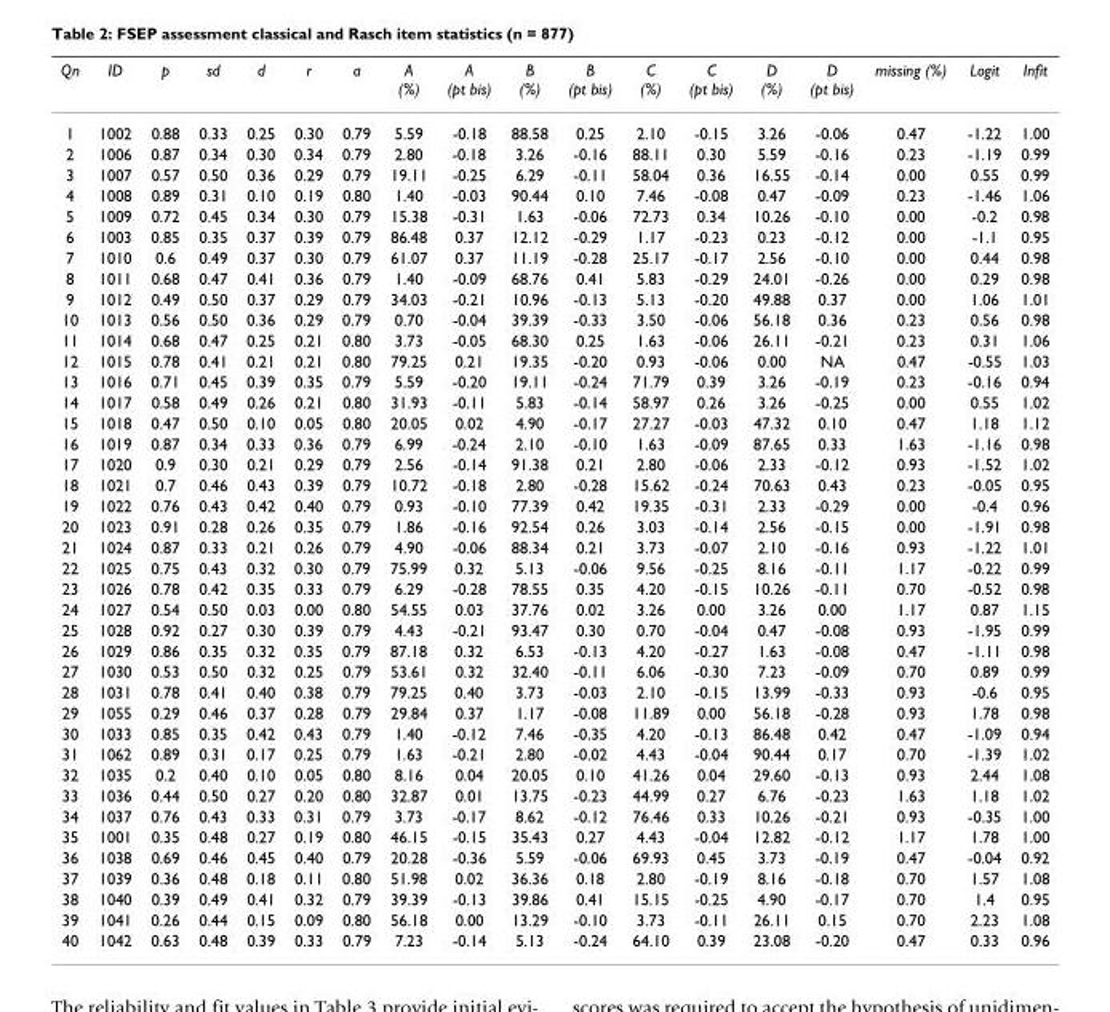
<table><thead><tr><td>Qn</td><td>ID</td><td>p</td><td>sd</td><td>d</td><td>r</td><td>a</td><td>A (%)</td><td>A (pt bis)</td><td>B (%)</td><td>B (pt bis)</td><td>C (%)</td><td>C (pt bis)</td><td>D (%)</td><td>D (pt bis)</td><td>missing (%)</td><td>Logit</td><td>Infit</td></tr></thead><tbody><tr><td>1</td><td>1002</td><td>0.88</td><td>0.33</td><td>0.25</td><td>0.30</td><td>0.79</td><td>5.59</td><td>-0.18</td><td>88.58</td><td>0.25</td><td>2.10</td><td>-0.15</td><td>3.26</td><td>-0.06</td><td>0.47</td><td>-1.22</td><td>1.00</td></tr><tr><td>2</td><td>1006</td><td>0.87</td><td>0.34</td><td>0.30</td><td>0.34</td><td>0.79</td><td>2.80</td><td>-0.18</td><td>3.26</td><td>-0.16</td><td>88.11</td><td>0.30</td><td>5.59</td><td>-0.16</td><td>0.23</td><td>-1.19</td><td>0.99</td></tr><tr><td>3</td><td>1007</td><td>0.57</td><td>0.50</td><td>0.36</td><td>0.29</td><td>0.79</td><td>19.11</td><td>-0.25</td><td>6.29</td><td>-0.11</td><td>58.04</td><td>0.36</td><td>16.55</td><td>-0.14</td><td>0.00</td><td>0.55</td><td>0.99</td></tr><tr><td>4</td><td>1008</td><td>0.89</td><td>0.31</td><td>0.10</td><td>0.19</td><td>0.80</td><td>1.40</td><td>-0.03</td><td>90.44</td><td>0.10</td><td>7.46</td><td>-0.08</td><td>0.47</td><td>-0.09</td><td>0.23</td><td>-1.46</td><td>1.06</td></tr><tr><td>5</td><td>1009</td><td>0.72</td><td>0.45</td><td>0.34</td><td>0.30</td><td>0.79</td><td>15.38</td><td>-0.31</td><td>1.63</td><td>-0.06</td><td>72.73</td><td>0.34</td><td>10.26</td><td>-0.10</td><td>0.00</td><td>-0.2</td><td>0.98</td></tr><tr><td>6</td><td>1003</td><td>0.85</td><td>0.35</td><td>0.37</td><td>0.39</td><td>0.79</td><td>86.48</td><td>0.37</td><td>12.12</td><td>-0.29</td><td>1.17</td><td>-0.23</td><td>0.23</td><td>-0.12</td><td>0.00</td><td>-1.1</td><td>0.95</td></tr><tr><td>7</td><td>1010</td><td>0.6</td><td>0.49</td><td>0.37</td><td>0.30</td><td>0.79</td><td>61.07</td><td>0.37</td><td>11.19</td><td>-0.28</td><td>25.17</td><td>-0.17</td><td>2.56</td><td>-0.10</td><td>0.00</td><td>0.44</td><td>0.98</td></tr><tr><td>8</td><td>1011</td><td>0.68</td><td>0.47</td><td>0.41</td><td>0.36</td><td>0.79</td><td>1.40</td><td>-0.09</td><td>68.76</td><td>0.41</td><td>5.83</td><td>-0.29</td><td>24.01</td><td>-0.26</td><td>0.00</td><td>0.29</td><td>0.98</td></tr><tr><td>9</td><td>1012</td><td>0.49</td><td>0.50</td><td>0.37</td><td>0.29</td><td>0.79</td><td>34.03</td><td>-0.21</td><td>10.96</td><td>-0.13</td><td>5.13</td><td>-0.20</td><td>49.88</td><td>0.37</td><td>0.00</td><td>1.06</td><td>1.01</td></tr><tr><td>10</td><td>1013</td><td>0.56</td><td>0.50</td><td>0.36</td><td>0.29</td><td>0.79</td><td>0.70</td><td>-0.04</td><td>39.39</td><td>-0.33</td><td>3.50</td><td>-0.06</td><td>56.18</td><td>0.36</td><td>0.23</td><td>0.56</td><td>0.98</td></tr><tr><td>11</td><td>1014</td><td>0.68</td><td>0.47</td><td>0.25</td><td>0.21</td><td>0.80</td><td>3.73</td><td>-0.05</td><td>68.30</td><td>0.25</td><td>1.63</td><td>-0.06</td><td>26.11</td><td>-0.21</td><td>0.23</td><td>0.31</td><td>1.06</td></tr><tr><td>12</td><td>1015</td><td>0.78</td><td>0.41</td><td>0.21</td><td>0.21</td><td>0.80</td><td>79.25</td><td>0.21</td><td>19.35</td><td>-0.20</td><td>0.93</td><td>-0.06</td><td>0.00</td><td>NA</td><td>0.47</td><td>-0.55</td><td>1.03</td></tr><tr><td>13</td><td>1016</td><td>0.71</td><td>0.45</td><td>0.39</td><td>0.35</td><td>0.79</td><td>5.59</td><td>-0.20</td><td>19.11</td><td>-0.24</td><td>71.79</td><td>0.39</td><td>3.26</td><td>-0.19</td><td>0.23</td><td>-0.16</td><td>0.94</td></tr><tr><td>14</td><td>1017</td><td>0.58</td><td>0.49</td><td>0.26</td><td>0.21</td><td>0.80</td><td>31.93</td><td>-0.11</td><td>5.83</td><td>-0.14</td><td>58.97</td><td>0.26</td><td>3.26</td><td>-0.25</td><td>0.00</td><td>0.55</td><td>1.02</td></tr><tr><td>15</td><td>1018</td><td>0.47</td><td>0.50</td><td>0.10</td><td>0.05</td><td>0.80</td><td>20.05</td><td>0.02</td><td>4.90</td><td>-0.17</td><td>27.27</td><td>-0.03</td><td>47.32</td><td>0.10</td><td>0.47</td><td>1.18</td><td>1.12</td></tr><tr><td>16</td><td>1019</td><td>0.87</td><td>0.34</td><td>0.33</td><td>0.36</td><td>0.79</td><td>6.99</td><td>-0.24</td><td>2.10</td><td>-0.10</td><td>1.63</td><td>-0.09</td><td>87.65</td><td>0.33</td><td>1.63</td><td>-1.16</td><td>0.98</td></tr><tr><td>17</td><td>1020</td><td>0.9</td><td>0.30</td><td>0.21</td><td>0.29</td><td>0.79</td><td>2.56</td><td>-0.14</td><td>91.38</td><td>0.21</td><td>2.80</td><td>-0.06</td><td>2.33</td><td>-0.12</td><td>0.93</td><td>-1.52</td><td>1.02</td></tr><tr><td>18</td><td>1021</td><td>0.7</td><td>0.46</td><td>0.43</td><td>0.39</td><td>0.79</td><td>10.72</td><td>-0.18</td><td>2.80</td><td>-0.28</td><td>15.62</td><td>-0.24</td><td>70.63</td><td>0.43</td><td>0.23</td><td>-0.05</td><td>0.95</td></tr><tr><td>19</td><td>1022</td><td>0.76</td><td>0.43</td><td>0.42</td><td>0.40</td><td>0.79</td><td>0.93</td><td>-0.10</td><td>77.39</td><td>0.42</td><td>19.35</td><td>-0.31</td><td>2.33</td><td>-0.29</td><td>0.00</td><td>-0.4</td><td>0.96</td></tr><tr><td>20</td><td>1023</td><td>0.91</td><td>0.28</td><td>0.26</td><td>0.35</td><td>0.79</td><td>1.86</td><td>-0.16</td><td>92.54</td><td>0.26</td><td>3.03</td><td>-0.14</td><td>2.56</td><td>-0.15</td><td>0.00</td><td>-1.91</td><td>0.98</td></tr><tr><td>21</td><td>1024</td><td>0.87</td><td>0.33</td><td>0.21</td><td>0.26</td><td>0.79</td><td>4.90</td><td>-0.06</td><td>88.34</td><td>0.21</td><td>3.73</td><td>-0.07</td><td>2.10</td><td>-0.16</td><td>0.93</td><td>-1.22</td><td>1.01</td></tr><tr><td>22</td><td>1025</td><td>0.75</td><td>0.43</td><td>0.32</td><td>0.30</td><td>0.79</td><td>75.99</td><td>0.32</td><td>5.13</td><td>-0.06</td><td>9.56</td><td>-0.25</td><td>8.16</td><td>-0.11</td><td>1.17</td><td>-0.22</td><td>0.99</td></tr><tr><td>23</td><td>1026</td><td>0.78</td><td>0.42</td><td>0.35</td><td>0.33</td><td>0.79</td><td>6.29</td><td>-0.28</td><td>78.55</td><td>0.35</td><td>4.20</td><td>-0.15</td><td>10.26</td><td>-0.11</td><td>0.70</td><td>-0.52</td><td>0.98</td></tr><tr><td>24</td><td>1027</td><td>0.54</td><td>0.50</td><td>0.03</td><td>0.00</td><td>0.80</td><td>54.55</td><td>0.03</td><td>37.76</td><td>0.02</td><td>3.26</td><td>0.00</td><td>3.26</td><td>0.00</td><td>1.17</td><td>0.87</td><td>1.15</td></tr><tr><td>25</td><td>1028</td><td>0.92</td><td>0.27</td><td>0.30</td><td>0.39</td><td>0.79</td><td>4.43</td><td>-0.21</td><td>93.47</td><td>0.30</td><td>0.70</td><td>-0.04</td><td>0.47</td><td>-0.08</td><td>0.93</td><td>-1.95</td><td>0.99</td></tr><tr><td>26</td><td>1029</td><td>0.86</td><td>0.35</td><td>0.32</td><td>0.35</td><td>0.79</td><td>87.18</td><td>0.32</td><td>6.53</td><td>-0.13</td><td>4.20</td><td>-0.27</td><td>1.63</td><td>-0.08</td><td>0.47</td><td>-1.11</td><td>0.98</td></tr><tr><td>27</td><td>1030</td><td>0.53</td><td>0.50</td><td>0.32</td><td>0.25</td><td>0.79</td><td>53.61</td><td>0.32</td><td>32.40</td><td>-0.11</td><td>6.06</td><td>-0.30</td><td>7.23</td><td>-0.09</td><td>0.70</td><td>0.89</td><td>0.99</td></tr><tr><td>28</td><td>1031</td><td>0.78</td><td>0.41</td><td>0.40</td><td>0.38</td><td>0.79</td><td>79.25</td><td>0.40</td><td>3.73</td><td>-0.03</td><td>2.10</td><td>-0.15</td><td>13.99</td><td>-0.33</td><td>0.93</td><td>-0.6</td><td>0.95</td></tr><tr><td>29</td><td>1055</td><td>0.29</td><td>0.46</td><td>0.37</td><td>0.28</td><td>0.79</td><td>29.84</td><td>0.37</td><td>1.17</td><td>-0.08</td><td>11.89</td><td>0.00</td><td>56.18</td><td>-0.28</td><td>0.93</td><td>1.78</td><td>0.98</td></tr><tr><td>30</td><td>1033</td><td>0.85</td><td>0.35</td><td>0.42</td><td>0.43</td><td>0.79</td><td>1.40</td><td>-0.12</td><td>7.46</td><td>-0.35</td><td>4.20</td><td>-0.13</td><td>86.48</td><td>0.42</td><td>0.47</td><td>-1.09</td><td>0.94</td></tr><tr><td>31</td><td>1062</td><td>0.89</td><td>0.31</td><td>0.17</td><td>0.25</td><td>0.79</td><td>1.63</td><td>-0.21</td><td>2.80</td><td>-0.02</td><td>4.43</td><td>-0.04</td><td>90.44</td><td>0.17</td><td>0.70</td><td>-1.39</td><td>1.02</td></tr><tr><td>32</td><td>1035</td><td>0.2</td><td>0.40</td><td>0.10</td><td>0.05</td><td>0.80</td><td>8.16</td><td>0.04</td><td>20.05</td><td>0.10</td><td>41.26</td><td>0.04</td><td>29.60</td><td>-0.13</td><td>0.93</td><td>2.44</td><td>1.08</td></tr><tr><td>33</td><td>1036</td><td>0.44</td><td>0.50</td><td>0.27</td><td>0.20</td><td>0.80</td><td>32.87</td><td>0.01</td><td>13.75</td><td>-0.23</td><td>44.99</td><td>0.27</td><td>6.76</td><td>-0.23</td><td>1.63</td><td>1.18</td><td>1.02</td></tr><tr><td>34</td><td>1037</td><td>0.76</td><td>0.43</td><td>0.33</td><td>0.31</td><td>0.79</td><td>3.73</td><td>-0.17</td><td>8.62</td><td>-0.12</td><td>76.46</td><td>0.33</td><td>10.26</td><td>-0.21</td><td>0.93</td><td>-0.35</td><td>1.00</td></tr><tr><td>35</td><td>1001</td><td>0.35</td><td>0.48</td><td>0.27</td><td>0.19</td><td>0.80</td><td>46.15</td><td>-0.15</td><td>35.43</td><td>0.27</td><td>4.43</td><td>-0.04</td><td>12.82</td><td>-0.12</td><td>1.17</td><td>1.78</td><td>1.00</td></tr><tr><td>36</td><td>1038</td><td>0.69</td><td>0.46</td><td>0.45</td><td>0.40</td><td>0.79</td><td>20.28</td><td>-0.36</td><td>5.59</td><td>-0.06</td><td>69.93</td><td>0.45</td><td>3.73</td><td>-0.19</td><td>0.47</td><td>-0.04</td><td>0.92</td></tr><tr><td>37</td><td>1039</td><td>0.36</td><td>0.48</td><td>0.18</td><td>0.11</td><td>0.80</td><td>51.98</td><td>0.02</td><td>36.36</td><td>0.18</td><td>2.80</td><td>-0.19</td><td>8.16</td><td>-0.18</td><td>0.70</td><td>1.57</td><td>1.08</td></tr><tr><td>38</td><td>1040</td><td>0.39</td><td>0.49</td><td>0.41</td><td>0.32</td><td>0.79</td><td>39.39</td><td>-0.13</td><td>39.86</td><td>0.41</td><td>15.15</td><td>-0.25</td><td>4.90</td><td>-0.17</td><td>0.70</td><td>1.4</td><td>0.95</td></tr><tr><td>39</td><td>1041</td><td>0.26</td><td>0.44</td><td>0.15</td><td>0.09</td><td>0.80</td><td>56.18</td><td>0.00</td><td>13.29</td><td>-0.10</td><td>3.73</td><td>-0.11</td><td>26.11</td><td>0.15</td><td>0.70</td><td>2.23</td><td>1.08</td></tr><tr><td>40</td><td>1042</td><td>0.63</td><td>0.48</td><td>0.39</td><td>0.33</td><td>0.79</td><td>7.23</td><td>-0.14</td><td>5.13</td><td>-0.24</td><td>64.10</td><td>0.39</td><td>23.08</td><td>-0.20</td><td>0.47</td><td>0.33</td><td>0.96</td></tr></tbody></table>